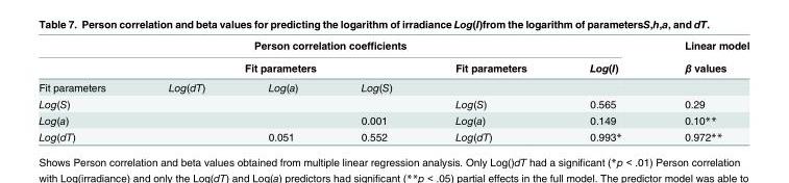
<table><thead><tr><td colspan="6">Person correlation coefficients</td><td rowspan="3">Linear model β values</td></tr><tr><td rowspan="2">Fit parameters</td><td colspan="3">Fit parameters</td><td rowspan="2">Fit parameters</td><td rowspan="2">Log(I)</td></tr><tr><td>Log(dT)</td><td>Log(a)</td><td>Log(S)</td></tr></thead><tbody><tr><td>Log(S)</td><td></td><td></td><td></td><td>Log(S)</td><td>0.565</td><td>0.29</td></tr><tr><td>Log(a)</td><td></td><td></td><td>0.001</td><td>Log(a)</td><td>0.149</td><td>0.10**</td></tr><tr><td>Log(dT)</td><td></td><td>0.051</td><td>0.552</td><td>Log(dT)</td><td>0.993*</td><td>0.972**</td></tr></tbody></table>